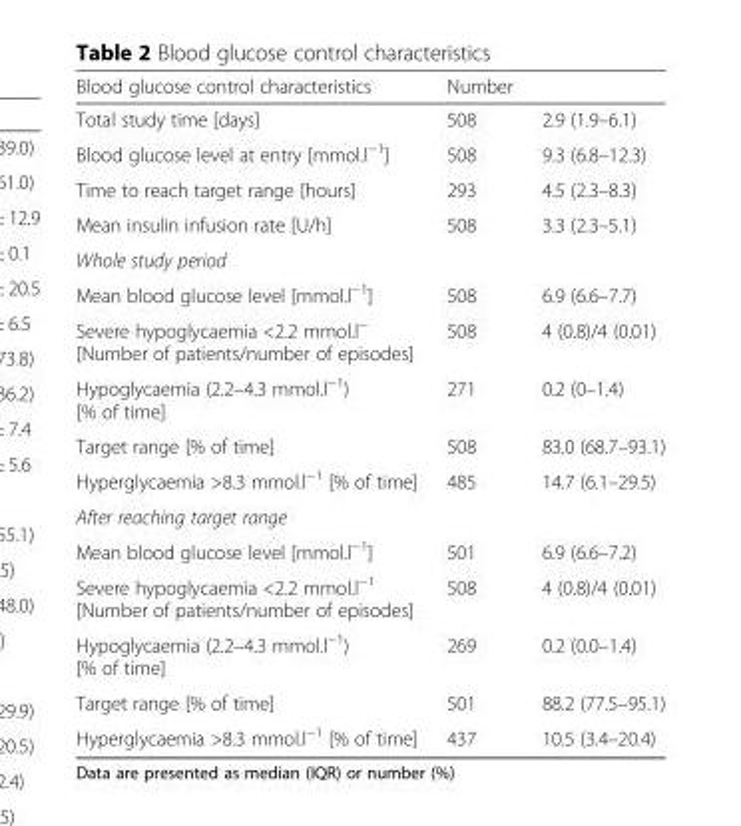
<table><thead><tr><td>Blood glucose control characteristics</td><td>Number</td><td></td></tr></thead><tbody><tr><td>Total study time [days]</td><td>508</td><td>2.9 (1.9–6.1)</td></tr><tr><td>Blood glucose level at entry [mmol.l<sup>−1</sup>]</td><td>508</td><td>9.3 (6.8–12.3)</td></tr><tr><td>Time to reach target range [hours]</td><td>293</td><td>4.5 (2.3–8.3)</td></tr><tr><td>Mean insulin infusion rate [U/h]</td><td>508</td><td>3.3 (2.3–5.1)</td></tr><tr><td colspan="3">Whole study period</td></tr><tr><td>Mean blood glucose level [mmol.l<sup>−1</sup>]</td><td>508</td><td>6.9 (6.6–7.7)</td></tr><tr><td>Severe hypoglycaemia &lt;2.2 mmol.l<sup>−</sup> [Number of patients/number of episodes]</td><td>508</td><td>4 (0.8)/4 (0.01)</td></tr><tr><td>Hypoglycaemia (2.2–4.3 mmol.l<sup>−1</sup>) [% of time]</td><td>271</td><td>0.2 (0–1.4)</td></tr><tr><td>Target range [% of time]</td><td>508</td><td>83.0 (68.7–93.1)</td></tr><tr><td>Hyperglycaemia &gt;8.3 mmol.l<sup>−1</sup> [% of time]</td><td>485</td><td>14.7 (6.1–29.5)</td></tr><tr><td colspan="3">After reaching target range</td></tr><tr><td>Mean blood glucose level [mmol.l<sup>−1</sup>]</td><td>501</td><td>6.9 (6.6–7.2)</td></tr><tr><td>Severe hypoglycaemia &lt;2.2 mmol.l<sup>−1</sup> [Number of patients/number of episodes]</td><td>508</td><td>4 (0.8)/4 (0.01)</td></tr><tr><td>Hypoglycaemia (2.2–4.3 mmol.l<sup>−1</sup>) [% of time]</td><td>269</td><td>0.2 (0.0–1.4)</td></tr><tr><td>Target range [% of time]</td><td>501</td><td>88.2 (77.5–95.1)</td></tr><tr><td>Hyperglycaemia &gt;8.3 mmol.l<sup>−1</sup> [% of time]</td><td>437</td><td>10.5 (3.4–20.4)</td></tr></tbody></table>